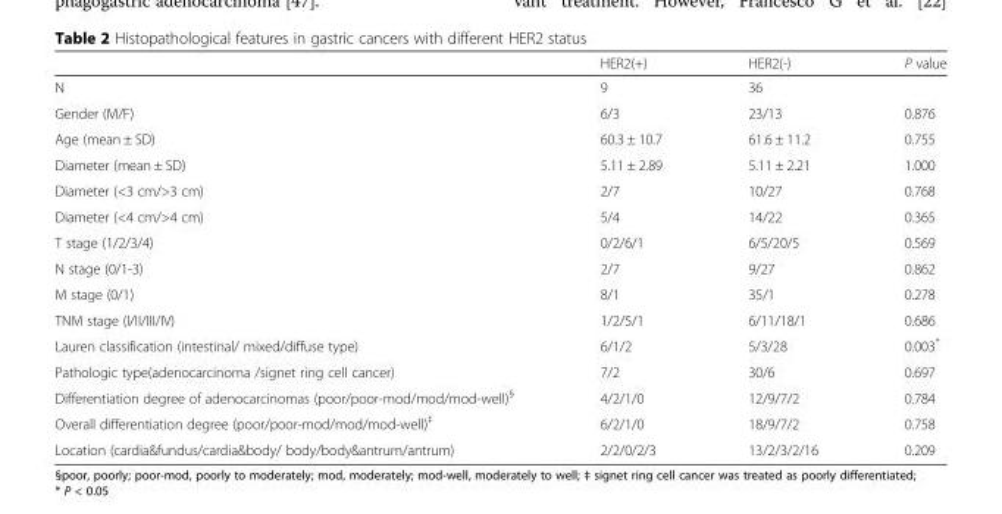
<table><thead><tr><td></td><td>HER2(+)</td><td>HER2(-)</td><td>P value</td></tr></thead><tbody><tr><td>N</td><td>9</td><td>36</td><td></td></tr><tr><td>Gender (M/F)</td><td>6/3</td><td>23/13</td><td>0.876</td></tr><tr><td>Age (mean ± SD)</td><td>60.3 ± 10.7</td><td>61.6 ± 11.2</td><td>0.755</td></tr><tr><td>Diameter (mean ± SD)</td><td>5.11 ± 2.89</td><td>5.11 ± 2.21</td><td>1.000</td></tr><tr><td>Diameter (&lt;3 cm/&gt;3 cm)</td><td>2/7</td><td>10/27</td><td>0.768</td></tr><tr><td>Diameter (&lt;4 cm/&gt;4 cm)</td><td>5/4</td><td>14/22</td><td>0.365</td></tr><tr><td>T stage (1/2/3/4)</td><td>0/2/6/1</td><td>6/5/20/5</td><td>0.569</td></tr><tr><td>N stage (0/1-3)</td><td>2/7</td><td>9/27</td><td>0.862</td></tr><tr><td>M stage (0/1)</td><td>8/1</td><td>35/1</td><td>0.278</td></tr><tr><td>TNM stage (I/II/III/IV)</td><td>1/2/5/1</td><td>6/11/18/1</td><td>0.686</td></tr><tr><td>Lauren classification (intestinal/ mixed/diffuse type)</td><td>6/1/2</td><td>5/3/28</td><td>0.003*</td></tr><tr><td>Pathologic type(adenocarcinoma /signet ring cell cancer)</td><td>7/2</td><td>30/6</td><td>0.697</td></tr><tr><td>Differentiation degree of adenocarcinomas (poor/poor-mod/mod/mod-well)<sup>§</sup></td><td>4/2/1/0</td><td>12/9/7/2</td><td>0.784</td></tr><tr><td>Overall differentiation degree (poor/poor-mod/mod/mod-well)<sup>‡</sup></td><td>6/2/1/0</td><td>18/9/7/2</td><td>0.758</td></tr><tr><td>Location (cardia&amp;fundus/cardia&amp;body/ body/body&amp;antrum/antrum)</td><td>2/2/0/2/3</td><td>13/2/3/2/16</td><td>0.209</td></tr></tbody></table>